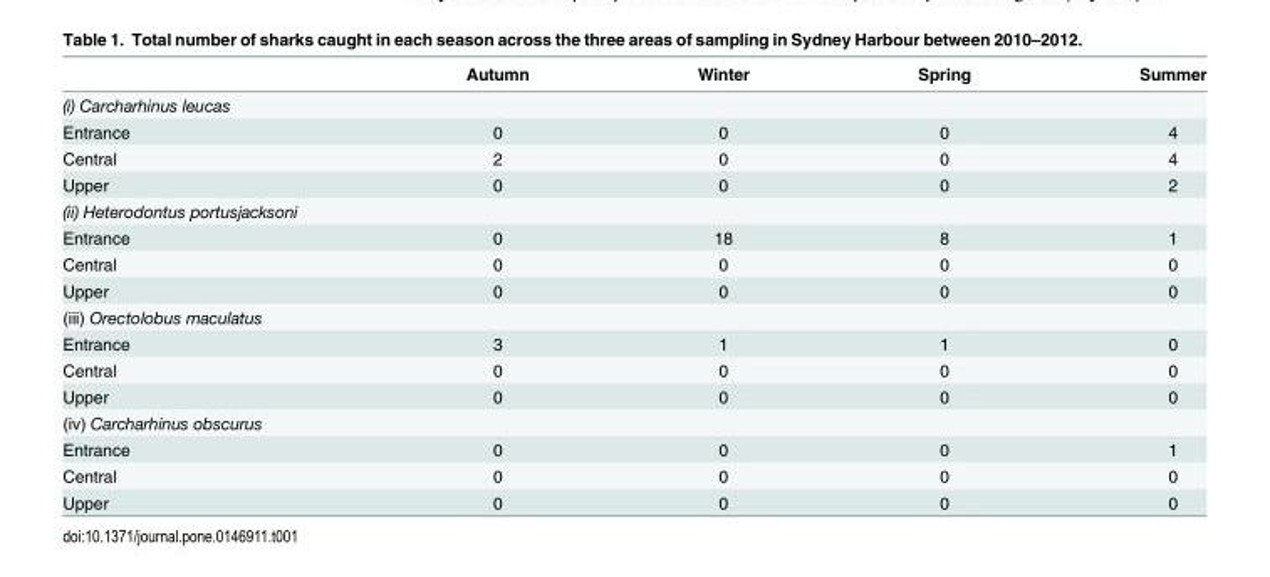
<table><thead><tr><td></td><td>Autumn</td><td>Winter</td><td>Spring</td><td>Summer</td></tr></thead><tbody><tr><td colspan="5">(i) Carcharhinus leucas</td></tr><tr><td>Entrance</td><td>0</td><td>0</td><td>0</td><td>4</td></tr><tr><td>Central</td><td>2</td><td>0</td><td>0</td><td>4</td></tr><tr><td>Upper</td><td>0</td><td>0</td><td>0</td><td>2</td></tr><tr><td colspan="5">(ii) Heterodontus portusjacksoni</td></tr><tr><td>Entrance</td><td>0</td><td>18</td><td>8</td><td>1</td></tr><tr><td>Central</td><td>0</td><td>0</td><td>0</td><td>0</td></tr><tr><td>Upper</td><td>0</td><td>0</td><td>0</td><td>0</td></tr><tr><td colspan="5">(iii) Orectolobus maculatus</td></tr><tr><td>Entrance</td><td>3</td><td>1</td><td>1</td><td>0</td></tr><tr><td>Central</td><td>0</td><td>0</td><td>0</td><td>0</td></tr><tr><td>Upper</td><td>0</td><td>0</td><td>0</td><td>0</td></tr><tr><td colspan="5">(iv) Carcharhinus obscurus</td></tr><tr><td>Entrance</td><td>0</td><td>0</td><td>0</td><td>1</td></tr><tr><td>Central</td><td>0</td><td>0</td><td>0</td><td>0</td></tr><tr><td>Upper</td><td>0</td><td>0</td><td>0</td><td>0</td></tr></tbody></table>